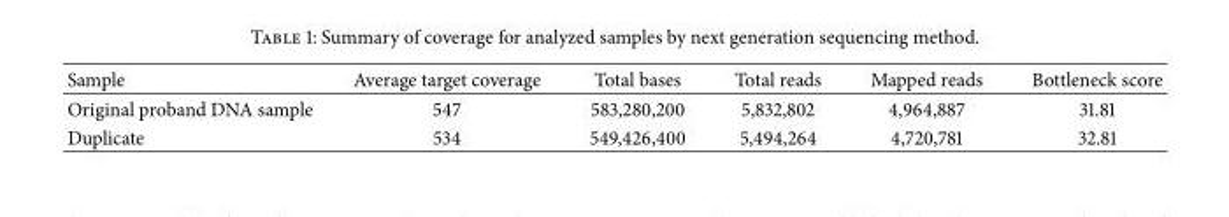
<table><thead><tr><td>Sample</td><td>Average target coverage</td><td>Total bases</td><td>Total reads</td><td>Mapped reads</td><td>Bottleneck score</td></tr></thead><tbody><tr><td>Original proband DNA sample</td><td>547</td><td>583,280,200</td><td>5,832,802</td><td>4,964,887</td><td>31.81</td></tr><tr><td>Duplicate</td><td>534</td><td>549,426,400</td><td>5,494,264</td><td>4,720,781</td><td>32.81</td></tr></tbody></table>